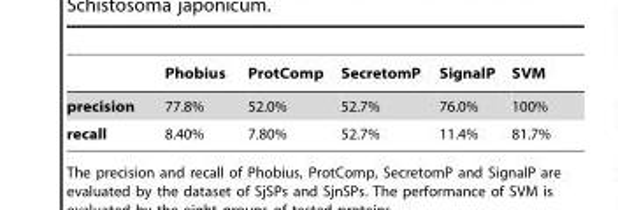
<table><thead><tr><td></td><td>Phobius</td><td>ProtComp</td><td>SecretomP</td><td>SignalP</td><td>SVM</td></tr></thead><tbody><tr><td>precision</td><td>77.8%</td><td>52.0%</td><td>52.7%</td><td>76.0%</td><td>100%</td></tr><tr><td>recall</td><td>8.40%</td><td>7.80%</td><td>52.7%</td><td>11.4%</td><td>81.7%</td></tr></tbody></table>